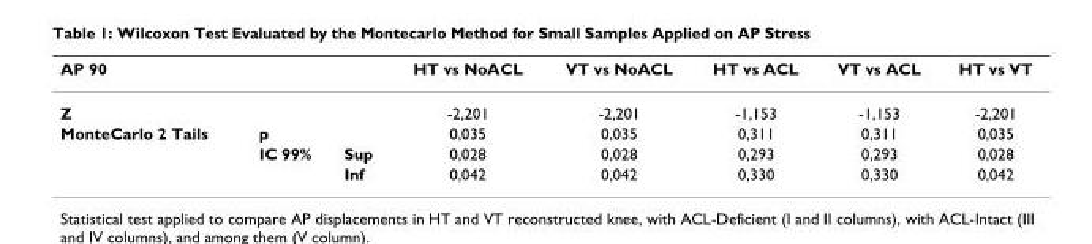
<table><thead><tr><td>AP 90</td><td></td><td></td><td>HT vs NoACL</td><td>VT vs NoACL</td><td>HT vs ACL</td><td>VT vs ACL</td><td>HT vs VT</td></tr></thead><tbody><tr><td>Z</td><td></td><td></td><td>-2,201</td><td>-2,201</td><td>-1,153</td><td>-1,153</td><td>-2,201</td></tr><tr><td rowspan="3">MonteCarlo 2 Tails</td><td>p</td><td></td><td>0,035</td><td>0,035</td><td>0,311</td><td>0,311</td><td>0,035</td></tr><tr><td>IC 99%</td><td>Sup</td><td>0,028</td><td>0,028</td><td>0,293</td><td>0,293</td><td>0,028</td></tr><tr><td></td><td>Inf</td><td>0,042</td><td>0,042</td><td>0,330</td><td>0,330</td><td>0,042</td></tr></tbody></table>